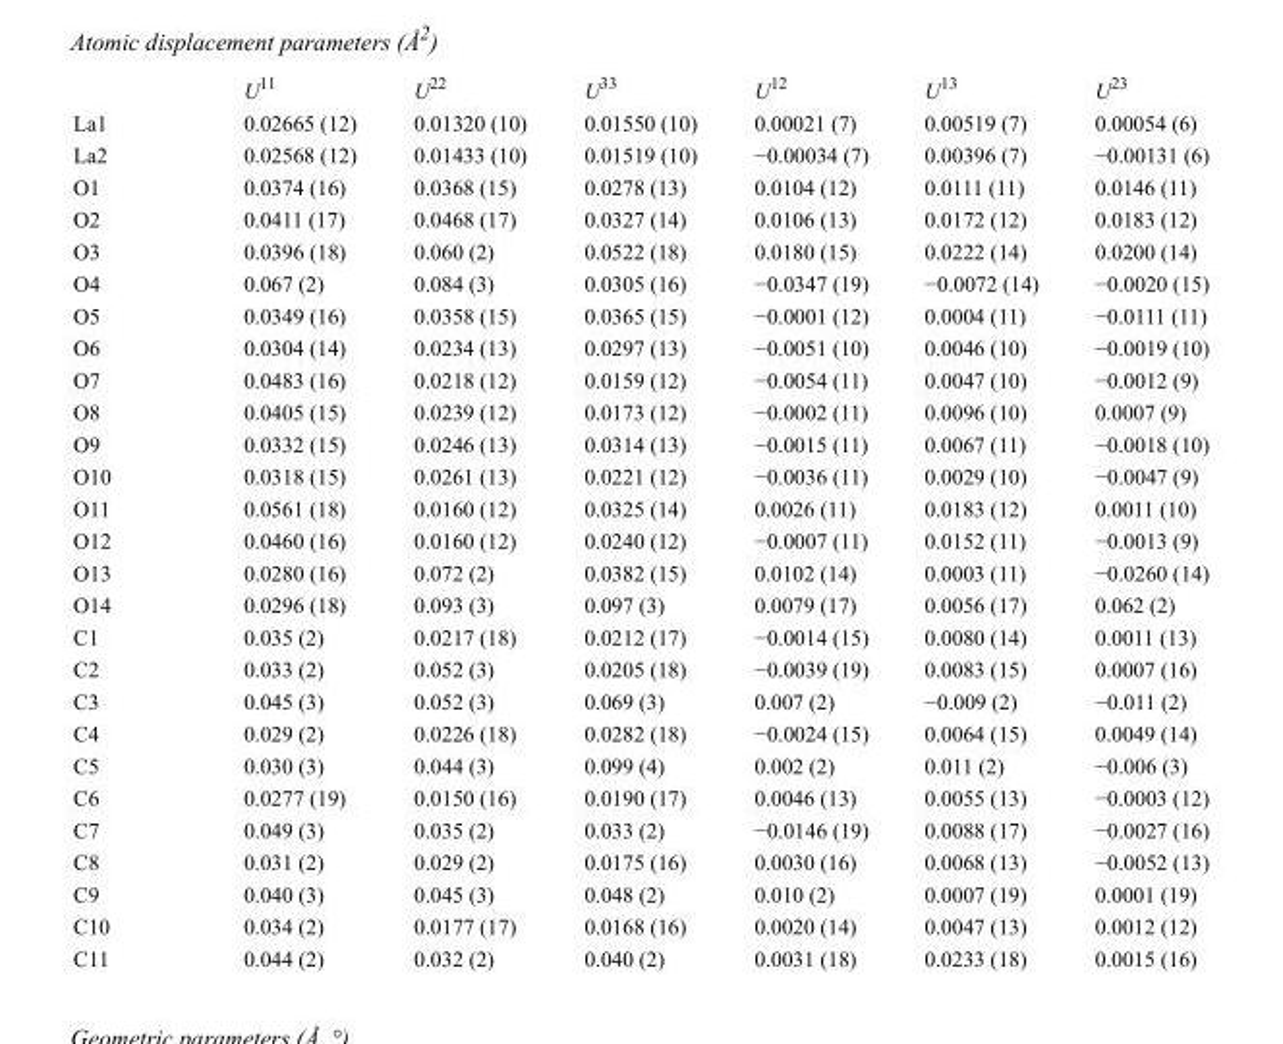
<table><thead><tr><td></td><td>U<sup>11</sup></td><td>U<sup>22</sup></td><td>U<sup>33</sup></td><td>U<sup>12</sup></td><td>U<sup>13</sup></td><td>U<sup>23</sup></td></tr></thead><tbody><tr><td>La1</td><td>0.02665 (12)</td><td>0.01320 (10)</td><td>0.01550 (10)</td><td>0.00021 (7)</td><td>0.00519 (7)</td><td>0.00054 (6)</td></tr><tr><td>La2</td><td>0.02568 (12)</td><td>0.01433 (10)</td><td>0.01519 (10)</td><td>−0.00034 (7)</td><td>0.00396 (7)</td><td>−0.00131 (6)</td></tr><tr><td>O1</td><td>0.0374 (16)</td><td>0.0368 (15)</td><td>0.0278 (13)</td><td>0.0104 (12)</td><td>0.0111 (11)</td><td>0.0146 (11)</td></tr><tr><td>O2</td><td>0.0411 (17)</td><td>0.0468 (17)</td><td>0.0327 (14)</td><td>0.0106 (13)</td><td>0.0172 (12)</td><td>0.0183 (12)</td></tr><tr><td>O3</td><td>0.0396 (18)</td><td>0.060 (2)</td><td>0.0522 (18)</td><td>0.0180 (15)</td><td>0.0222 (14)</td><td>0.0200 (14)</td></tr><tr><td>O4</td><td>0.067 (2)</td><td>0.084 (3)</td><td>0.0305 (16)</td><td>−0.0347 (19)</td><td>−0.0072 (14)</td><td>−0.0020 (15)</td></tr><tr><td>O5</td><td>0.0349 (16)</td><td>0.0358 (15)</td><td>0.0365 (15)</td><td>−0.0001 (12)</td><td>0.0004 (11)</td><td>−0.0111 (11)</td></tr><tr><td>O6</td><td>0.0304 (14)</td><td>0.0234 (13)</td><td>0.0297 (13)</td><td>−0.0051 (10)</td><td>0.0046 (10)</td><td>−0.0019 (10)</td></tr><tr><td>O7</td><td>0.0483 (16)</td><td>0.0218 (12)</td><td>0.0159 (12)</td><td>−0.0054 (11)</td><td>0.0047 (10)</td><td>−0.0012 (9)</td></tr><tr><td>O8</td><td>0.0405 (15)</td><td>0.0239 (12)</td><td>0.0173 (12)</td><td>−0.0002 (11)</td><td>0.0096 (10)</td><td>0.0007 (9)</td></tr><tr><td>O9</td><td>0.0332 (15)</td><td>0.0246 (13)</td><td>0.0314 (13)</td><td>−0.0015 (11)</td><td>0.0067 (11)</td><td>−0.0018 (10)</td></tr><tr><td>O10</td><td>0.0318 (15)</td><td>0.0261 (13)</td><td>0.0221 (12)</td><td>−0.0036 (11)</td><td>0.0029 (10)</td><td>−0.0047 (9)</td></tr><tr><td>O11</td><td>0.0561 (18)</td><td>0.0160 (12)</td><td>0.0325 (14)</td><td>0.0026 (11)</td><td>0.0183 (12)</td><td>0.0011 (10)</td></tr><tr><td>O12</td><td>0.0460 (16)</td><td>0.0160 (12)</td><td>0.0240 (12)</td><td>−0.0007 (11)</td><td>0.0152 (11)</td><td>−0.0013 (9)</td></tr><tr><td>O13</td><td>0.0280 (16)</td><td>0.072 (2)</td><td>0.0382 (15)</td><td>0.0102 (14)</td><td>0.0003 (11)</td><td>−0.0260 (14)</td></tr><tr><td>O14</td><td>0.0296 (18)</td><td>0.093 (3)</td><td>0.097 (3)</td><td>0.0079 (17)</td><td>0.0056 (17)</td><td>0.062 (2)</td></tr><tr><td>C1</td><td>0.035 (2)</td><td>0.0217 (18)</td><td>0.0212 (17)</td><td>−0.0014 (15)</td><td>0.0080 (14)</td><td>0.0011 (13)</td></tr><tr><td>C2</td><td>0.033 (2)</td><td>0.052 (3)</td><td>0.0205 (18)</td><td>−0.0039 (19)</td><td>0.0083 (15)</td><td>0.0007 (16)</td></tr><tr><td>C3</td><td>0.045 (3)</td><td>0.052 (3)</td><td>0.069 (3)</td><td>0.007 (2)</td><td>−0.009 (2)</td><td>−0.011 (2)</td></tr><tr><td>C4</td><td>0.029 (2)</td><td>0.0226 (18)</td><td>0.0282 (18)</td><td>−0.0024 (15)</td><td>0.0064 (15)</td><td>0.0049 (14)</td></tr><tr><td>C5</td><td>0.030 (3)</td><td>0.044 (3)</td><td>0.099 (4)</td><td>0.002 (2)</td><td>0.011 (2)</td><td>−0.006 (3)</td></tr><tr><td>C6</td><td>0.0277 (19)</td><td>0.0150 (16)</td><td>0.0190 (17)</td><td>0.0046 (13)</td><td>0.0055 (13)</td><td>−0.0003 (12)</td></tr><tr><td>C7</td><td>0.049 (3)</td><td>0.035 (2)</td><td>0.033 (2)</td><td>−0.0146 (19)</td><td>0.0088 (17)</td><td>−0.0027 (16)</td></tr><tr><td>C8</td><td>0.031 (2)</td><td>0.029 (2)</td><td>0.0175 (16)</td><td>0.0030 (16)</td><td>0.0068 (13)</td><td>−0.0052 (13)</td></tr><tr><td>C9</td><td>0.040 (3)</td><td>0.045 (3)</td><td>0.048 (2)</td><td>0.010 (2)</td><td>0.0007 (19)</td><td>0.0001 (19)</td></tr><tr><td>C10</td><td>0.034 (2)</td><td>0.0177 (17)</td><td>0.0168 (16)</td><td>0.0020 (14)</td><td>0.0047 (13)</td><td>0.0012 (12)</td></tr><tr><td>C11</td><td>0.044 (2)</td><td>0.032 (2)</td><td>0.040 (2)</td><td>0.0031 (18)</td><td>0.0233 (18)</td><td>0.0015 (16)</td></tr></tbody></table>